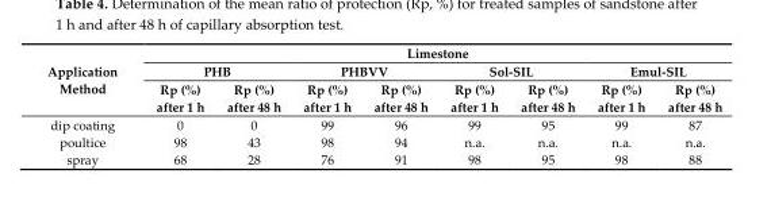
<table><thead><tr><td rowspan="3">Application Method</td><td colspan="8">Limestone</td></tr><tr><td colspan="2">PHB</td><td colspan="2">PHBVV</td><td colspan="2">Sol-SIL</td><td colspan="2">Emul-SIL</td></tr><tr><td>Rp (%) after 1 h</td><td>Rp (%) after 48 h</td><td>Rp (%) after 1 h</td><td>Rp (%) after 48 h</td><td>Rp (%) after 1 h</td><td>Rp (%) after 48 h</td><td>Rp (%) after 1 h</td><td>Rp (%) after 48 h</td></tr></thead><tbody><tr><td>dip coating</td><td>0</td><td>0</td><td>99</td><td>96</td><td>99</td><td>95</td><td>99</td><td>87</td></tr><tr><td>poultice</td><td>98</td><td>43</td><td>98</td><td>94</td><td>n.a.</td><td>n.a.</td><td>n.a.</td><td>n.a.</td></tr><tr><td>spray</td><td>68</td><td>28</td><td>76</td><td>91</td><td>98</td><td>95</td><td>98</td><td>88</td></tr></tbody></table>